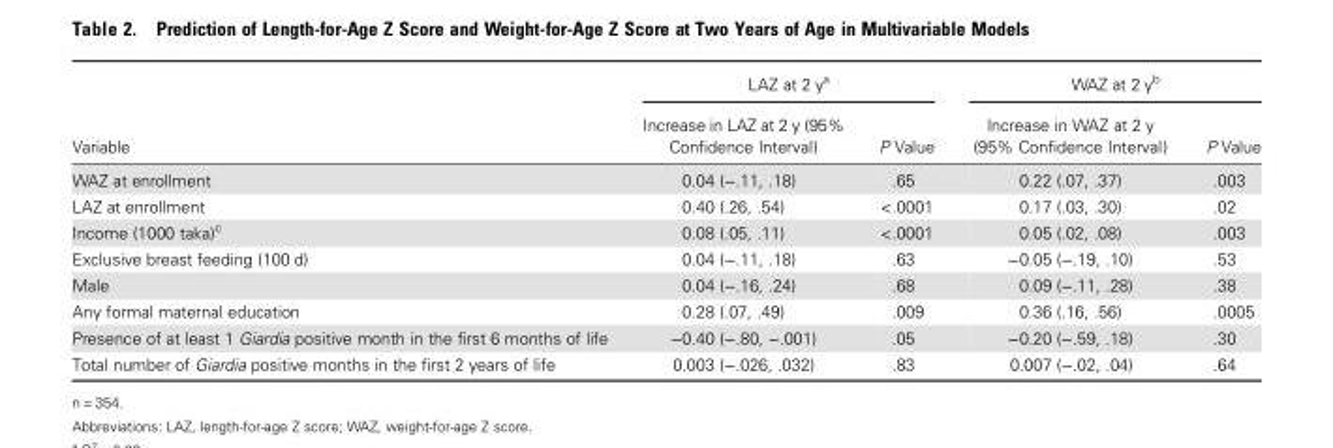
<table><thead><tr><td rowspan="2">Variable</td><td colspan="2">LAZ at 2 y<sup>a</sup></td><td colspan="2">WAZ at 2 y<sup>b</sup></td></tr><tr><td>Increase in LAZ at 2 y (95% Confidence Interval)</td><td>P Value</td><td>Increase in WAZ at 2 y (95% Confidence Interval)</td><td>P Value</td></tr></thead><tbody><tr><td>WAZ at enrollment</td><td>0.04 (−.11, .18)</td><td>.65</td><td>0.22 (.07, .37)</td><td>.003</td></tr><tr><td>LAZ at enrollment</td><td>0.40 (.26, .54)</td><td>&lt;.0001</td><td>0.17 (.03, .30)</td><td>.02</td></tr><tr><td>Income (1000 taka)<sup>c</sup></td><td>0.08 (.05, .11)</td><td>&lt;.0001</td><td>0.05 (.02, .08)</td><td>.003</td></tr><tr><td>Exclusive breast feeding (100 d)</td><td>0.04 (−.11, .18)</td><td>.63</td><td>−0.05 (−.19, .10)</td><td>.53</td></tr><tr><td>Male</td><td>0.04 (−.16, .24)</td><td>.68</td><td>0.09 (−.11, .28)</td><td>.38</td></tr><tr><td>Any formal maternal education</td><td>0.28 (.07, .49)</td><td>.009</td><td>0.36 (.16, .56)</td><td>.0005</td></tr><tr><td>Presence of at least 1 Giardia positive month in the first 6 months of life</td><td>−0.40 (−.80, −.001)</td><td>.05</td><td>−0.20 (−.59, .18)</td><td>.30</td></tr><tr><td>Total number of Giardia positive months in the first 2 years of life</td><td>0.003 (−.026, .032)</td><td>.83</td><td>0.007 (−.02, .04)</td><td>.64</td></tr></tbody></table>